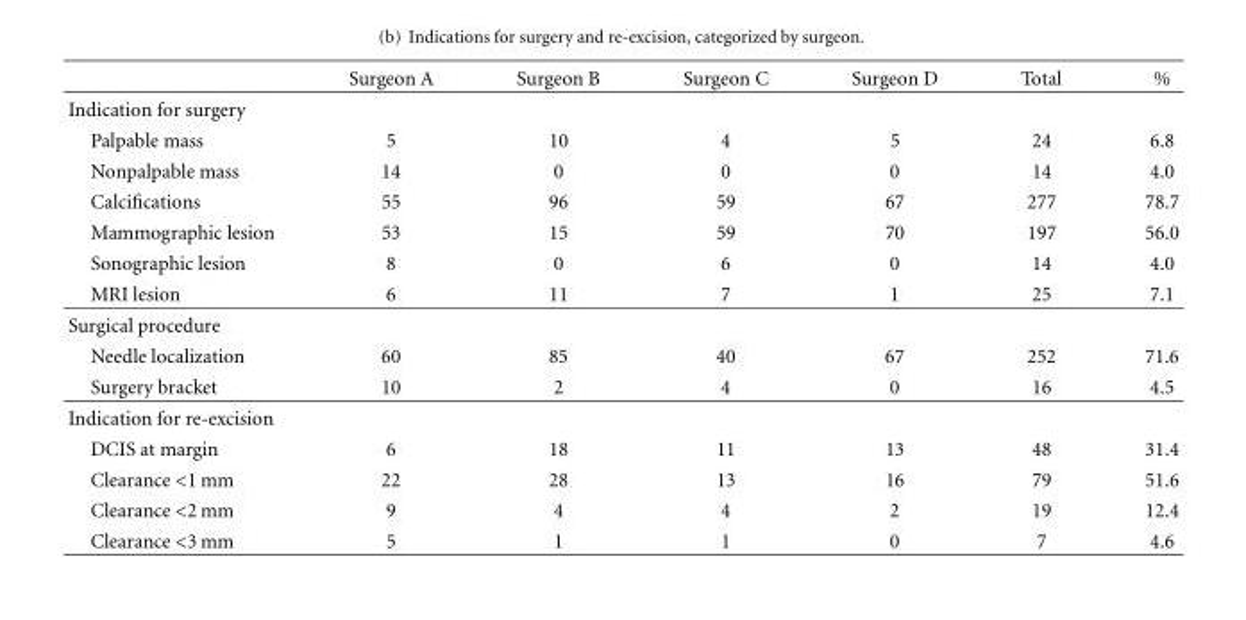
<table><thead><tr><td></td><td>Surgeon A</td><td>Surgeon B</td><td>Surgeon C</td><td>Surgeon D</td><td>Total</td><td>%</td></tr></thead><tbody><tr><td colspan="7">Indication for surgery</td></tr><tr><td>Palpable mass</td><td>5</td><td>10</td><td>4</td><td>5</td><td>24</td><td>6.8</td></tr><tr><td>Nonpalpable mass</td><td>14</td><td>0</td><td>0</td><td>0</td><td>14</td><td>4.0</td></tr><tr><td>Calcifications</td><td>55</td><td>96</td><td>59</td><td>67</td><td>277</td><td>78.7</td></tr><tr><td>Mammographic lesion</td><td>53</td><td>15</td><td>59</td><td>70</td><td>197</td><td>56.0</td></tr><tr><td>Sonographic lesion</td><td>8</td><td>0</td><td>6</td><td>0</td><td>14</td><td>4.0</td></tr><tr><td>MRI lesion</td><td>6</td><td>11</td><td>7</td><td>1</td><td>25</td><td>7.1</td></tr><tr><td colspan="7">Surgical procedure</td></tr><tr><td>Needle localization</td><td>60</td><td>85</td><td>40</td><td>67</td><td>252</td><td>71.6</td></tr><tr><td>Surgery bracket</td><td>10</td><td>2</td><td>4</td><td>0</td><td>16</td><td>4.5</td></tr><tr><td colspan="7">Indication for re-excision</td></tr><tr><td>DCIS at margin</td><td>6</td><td>18</td><td>11</td><td>13</td><td>48</td><td>31.4</td></tr><tr><td>Clearance &lt;1 mm</td><td>22</td><td>28</td><td>13</td><td>16</td><td>79</td><td>51.6</td></tr><tr><td>Clearance &lt;2 mm</td><td>9</td><td>4</td><td>4</td><td>2</td><td>19</td><td>12.4</td></tr><tr><td>Clearance &lt;3 mm</td><td>5</td><td>1</td><td>1</td><td>0</td><td>7</td><td>4.6</td></tr></tbody></table>